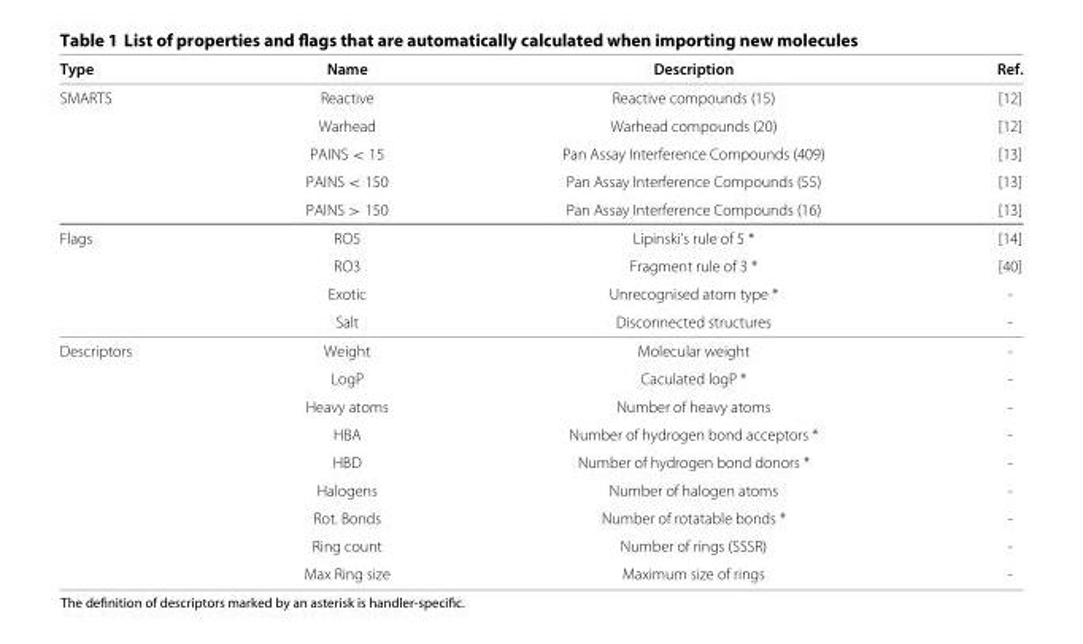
<table><thead><tr><td>Type</td><td>Name</td><td>Description</td><td>Ref.</td></tr></thead><tbody><tr><td rowspan="5">SMARTS</td><td>Reactive</td><td>Reactive compounds (15)</td><td>[12]</td></tr><tr><td>Warhead</td><td>Warhead compounds (20)</td><td>[12]</td></tr><tr><td>PAINS &lt; 15</td><td>Pan Assay Interference Compounds (409)</td><td>[13]</td></tr><tr><td>PAINS &lt; 150</td><td>Pan Assay Interference Compounds (55)</td><td>[13]</td></tr><tr><td>PAINS &gt; 150</td><td>Pan Assay Interference Compounds (16)</td><td>[13]</td></tr><tr><td rowspan="4">Flags</td><td>RO5</td><td>Lipinski’s rule of 5 *</td><td>[14]</td></tr><tr><td>RO3</td><td>Fragment rule of 3 *</td><td>[40]</td></tr><tr><td>Exotic</td><td>Unrecognised atom type *</td><td>-</td></tr><tr><td>Salt</td><td>Disconnected structures</td><td>-</td></tr><tr><td rowspan="9">Descriptors</td><td>Weight</td><td>Molecular weight</td><td>-</td></tr><tr><td>LogP</td><td>Caculated logP *</td><td>-</td></tr><tr><td>Heavy atoms</td><td>Number of heavy atoms</td><td>-</td></tr><tr><td>HBA</td><td>Number of hydrogen bond acceptors *</td><td>-</td></tr><tr><td>HBD</td><td>Number of hydrogen bond donors *</td><td>-</td></tr><tr><td>Halogens</td><td>Number of halogen atoms</td><td>-</td></tr><tr><td>Rot. Bonds</td><td>Number of rotatable bonds *</td><td>-</td></tr><tr><td>Ring count</td><td>Number of rings (SSSR)</td><td>-</td></tr><tr><td>Max Ring size</td><td>Maximum size of rings</td><td>-</td></tr></tbody></table>